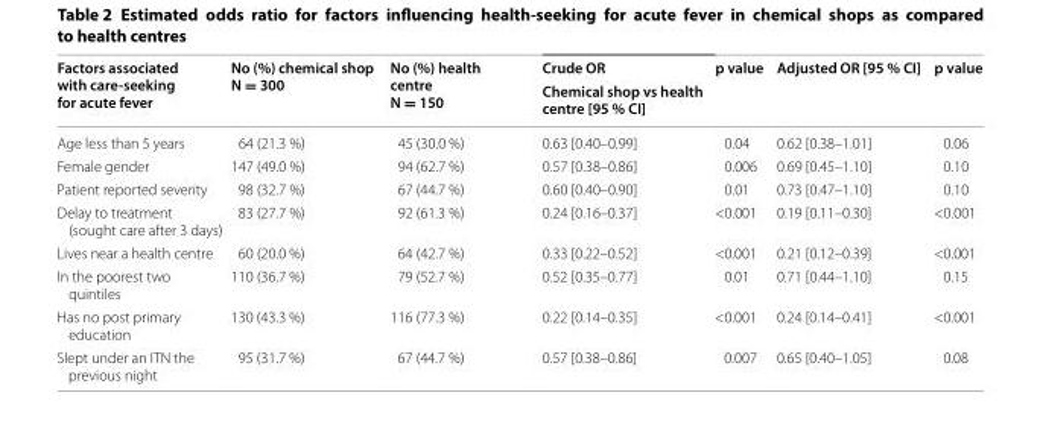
<table><thead><tr><td rowspan="2">Factors associated with care‑seeking for acute fever</td><td rowspan="2">No (%) chemical shop N = 300</td><td rowspan="2">No (%) health centre N = 150</td><td rowspan="2">Crude OR Chemical shop vs health centre [95 % CI]</td><td rowspan="2">p value</td><td rowspan="2">Adjusted OR [95 % CI]</td><td rowspan="2">p value</td></tr><tr></tr></thead><tbody><tr><td>Age less than 5 years</td><td>64 (21.3 %)</td><td>45 (30.0 %)</td><td>0.63 [0.40–0.99]</td><td>0.04</td><td>0.62 [0.38–1.01]</td><td>0.06</td></tr><tr><td>Female gender</td><td>147 (49.0 %)</td><td>94 (62.7 %)</td><td>0.57 [0.38–0.86]</td><td>0.006</td><td>0.69 [0.45–1.10]</td><td>0.10</td></tr><tr><td>Patient reported severity</td><td>98 (32.7 %)</td><td>67 (44.7 %)</td><td>0.60 [0.40–0.90]</td><td>0.01</td><td>0.73 [0.47–1.10]</td><td>0.10</td></tr><tr><td>Delay to treatment (sought care after 3 days)</td><td>83 (27.7 %)</td><td>92 (61.3 %)</td><td>0.24 [0.16–0.37]</td><td>&lt;0.001</td><td>0.19 [0.11–0.30]</td><td>&lt;0.001</td></tr><tr><td>Lives near a health centre</td><td>60 (20.0 %)</td><td>64 (42.7 %)</td><td>0.33 [0.22–0.52]</td><td>&lt;0.001</td><td>0.21 [0.12–0.39]</td><td>&lt;0.001</td></tr><tr><td>In the poorest two quintiles</td><td>110 (36.7 %)</td><td>79 (52.7 %)</td><td>0.52 [0.35–0.77]</td><td>0.01</td><td>0.71 [0.44–1.10]</td><td>0.15</td></tr><tr><td>Has no post primary education</td><td>130 (43.3 %)</td><td>116 (77.3 %)</td><td>0.22 [0.14–0.35]</td><td>&lt;0.001</td><td>0.24 [0.14–0.41]</td><td>&lt;0.001</td></tr><tr><td>Slept under an ITN the previous night</td><td>95 (31.7 %)</td><td>67 (44.7 %)</td><td>0.57 [0.38–0.86]</td><td>0.007</td><td>0.65 [0.40–1.05]</td><td>0.08</td></tr></tbody></table>